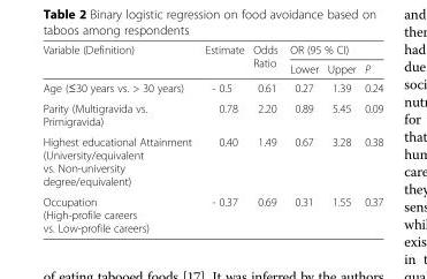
<table><thead><tr><td rowspan="2">Variable (Definition)</td><td rowspan="2">Estimate</td><td rowspan="2">Odds Ratio</td><td colspan="3">OR (95 % CI)</td></tr><tr><td>Lower</td><td>Upper</td><td>P</td></tr></thead><tbody><tr><td>Age (≤30 years vs. &gt; 30 years)</td><td>- 0.5</td><td>0.61</td><td>0.27</td><td>1.39</td><td>0.24</td></tr><tr><td>Parity (Multigravida vs. Primigravida)</td><td>0.78</td><td>2.20</td><td>0.89</td><td>5.45</td><td>0.09</td></tr><tr><td>Highest educational Attainment (University/equivalent vs. Non-university degree/equivalent)</td><td>0.40</td><td>1.49</td><td>0.67</td><td>3.28</td><td>0.38</td></tr><tr><td>Occupation (High-profile careers vs. Low-profile careers)</td><td>- 0.37</td><td>0.69</td><td>0.31</td><td>1.55</td><td>0.37</td></tr></tbody></table>